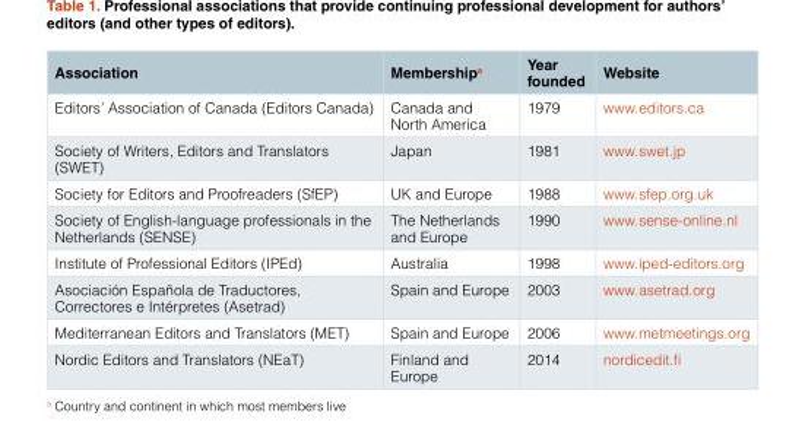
<table><thead><tr><td>Association</td><td>Membership<sup>a</sup></td><td>Year founded</td><td>Website</td></tr></thead><tbody><tr><td>Editors’ Association of Canada (Editors Canada)</td><td>Canada and North America</td><td>1979</td><td>www.editors.ca</td></tr><tr><td>Society of Writers, Editors and Translators (SWET)</td><td>Japan</td><td>1981</td><td>www.swet.jp</td></tr><tr><td>Society for Editors and Proofreaders (SfEP)</td><td>UK and Europe</td><td>1988</td><td>www.sfep.org.uk</td></tr><tr><td>Society of English-language professionals in the Netherlands (SENSE)</td><td>The Netherlands and Europe</td><td>1990</td><td>www.sense-online.nl</td></tr><tr><td>Institute of Professional Editors (IPEd)</td><td>Australia</td><td>1998</td><td>www.iped-editors.org</td></tr><tr><td>Asociación Española de Traductores, Correctores e Intérpretes (Asetrad)</td><td>Spain and Europe</td><td>2003</td><td>www.asetrad.org</td></tr><tr><td>Mediterranean Editors and Translators (MET)</td><td>Spain and Europe</td><td>2006</td><td>www.metmeetings.org</td></tr><tr><td>Nordic Editors and Translators (NEaT)</td><td>Finland and Europe</td><td>2014</td><td>nordicedit.fi</td></tr></tbody></table>